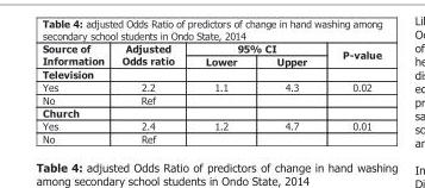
<table><thead><tr><td rowspan="2">Source of Information</td><td rowspan="2">Adjusted Odds ratio</td><td colspan="2">95% CI</td><td rowspan="2">Pvalue</td></tr><tr><td>Lower</td><td>Upper</td></tr></thead><tbody><tr><td colspan="5">Television</td></tr><tr><td>Yes</td><td>2.2</td><td>1.1</td><td>4.3</td><td>0.02</td></tr><tr><td>No</td><td>Ref</td><td></td><td></td><td></td></tr><tr><td colspan="5">Church</td></tr><tr><td>Yes</td><td>2.4</td><td>1.2</td><td>4.7</td><td>0.01</td></tr><tr><td>No</td><td>Ref</td><td></td><td></td><td></td></tr></tbody></table>